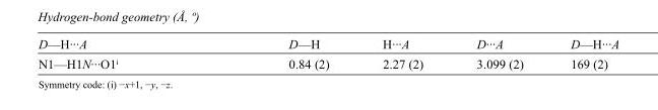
<table><tbody><tr><td>D—H···A</td><td>D—H</td><td>H···A</td><td>D···A</td><td>D—H···A</td></tr><tr><td>N1—H1N···O1<sup>i</sup></td><td>0.84 (2)</td><td>2.27 (2)</td><td>3.099 (2)</td><td>169 (2)</td></tr></tbody></table>